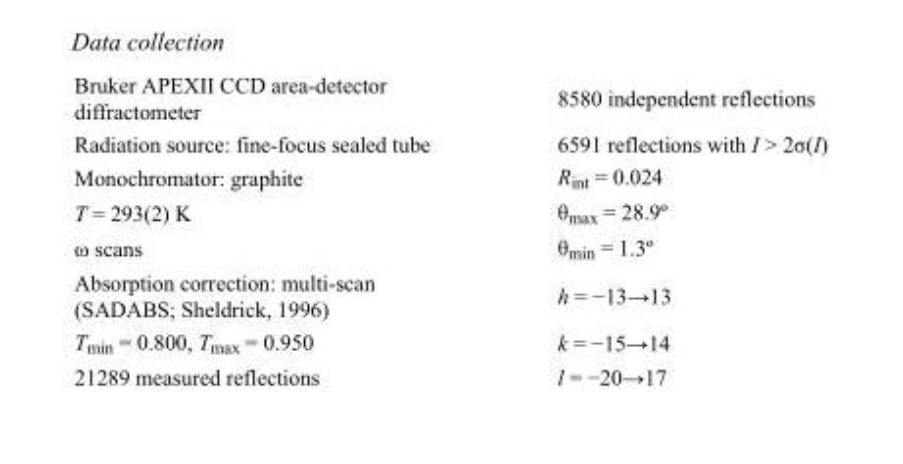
<table><tbody><tr><td>Bruker APEXII CCD area-detector diffractometer</td><td>8580 independent reflections</td></tr><tr><td>Radiation source: fine-focus sealed tube</td><td>6591 reflections with I &gt; 2σ(I)</td></tr><tr><td>Monochromator: graphite</td><td>R<sub>int</sub> = 0.024</td></tr><tr><td>T = 293(2) K</td><td>θ<sub>max</sub> = 28.9º</td></tr><tr><td>ω scans</td><td>θ<sub>min</sub> = 1.3º</td></tr><tr><td>Absorption correction: multi-scan (SADABS; Sheldrick, 1996)</td><td>h = −13→13</td></tr><tr><td>T<sub>min</sub> = 0.800, T<sub>max</sub> = 0.950</td><td>k = −15→14</td></tr><tr><td>21289 measured reflections</td><td>l = −20→17</td></tr></tbody></table>